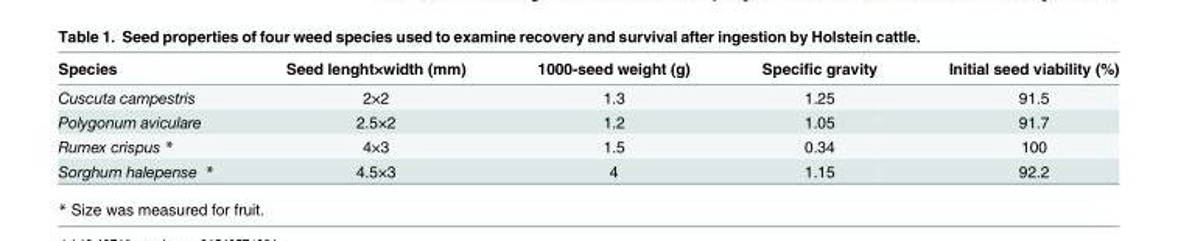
<table><thead><tr><td>Species</td><td>Seed lenght×width (mm)</td><td>1000-seed weight (g)</td><td>Specific gravity</td><td>Initial seed viability (%)</td></tr></thead><tbody><tr><td>Cuscuta campestris</td><td>2×2</td><td>1.3</td><td>1.25</td><td>91.5</td></tr><tr><td>Polygonum aviculare</td><td>2.5×2</td><td>1.2</td><td>1.05</td><td>91.7</td></tr><tr><td>Rumex crispus *</td><td>4×3</td><td>1.5</td><td>0.34</td><td>100</td></tr><tr><td>Sorghum halepense *</td><td>4.5×3</td><td>4</td><td>1.15</td><td>92.2</td></tr></tbody></table>